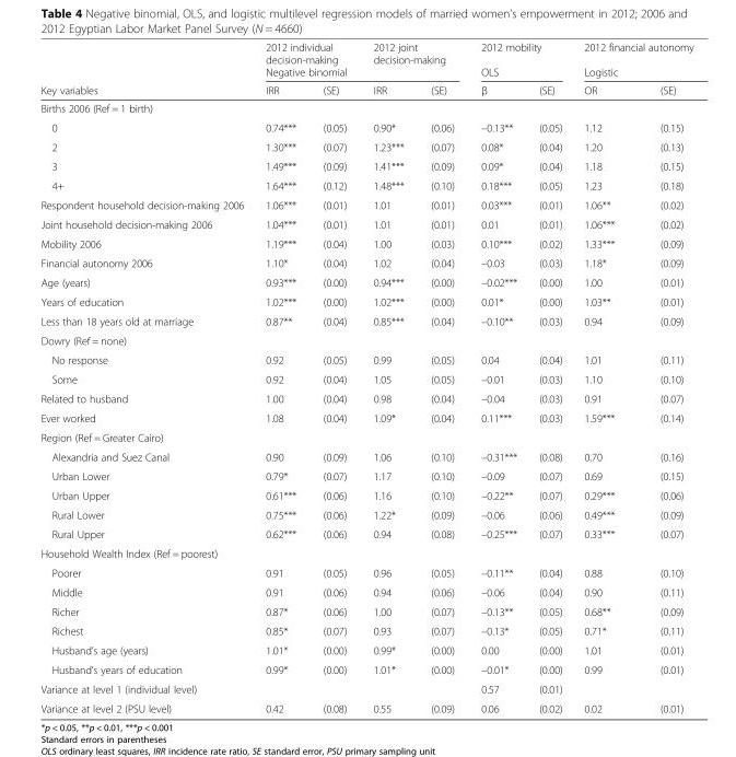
<table><thead><tr><td rowspan="3">Key variables</td><td colspan="2">2012 individual decision-making</td><td colspan="2">2012 joint decision-making</td><td rowspan="2" colspan="2">2012 mobility OLS</td><td rowspan="2" colspan="2">2012 financial autonomy Logistic</td></tr><tr><td colspan="4">Negative binomial</td></tr><tr><td>IRR</td><td>(SE)</td><td>IRR</td><td>(SE)</td><td>β</td><td>(SE)</td><td>OR</td><td>(SE)</td></tr></thead><tbody><tr><td colspan="9">Births 2006 (Ref = 1 birth)</td></tr><tr><td>0</td><td>0.74***</td><td>(0.05)</td><td>0.90*</td><td>(0.06)</td><td>–0.13**</td><td>(0.05)</td><td>1.12</td><td>(0.15)</td></tr><tr><td>2</td><td>1.30***</td><td>(0.07)</td><td>1.23***</td><td>(0.07)</td><td>0.08*</td><td>(0.04)</td><td>1.20</td><td>(0.13)</td></tr><tr><td>3</td><td>1.49***</td><td>(0.09)</td><td>1.41***</td><td>(0.09)</td><td>0.09*</td><td>(0.04)</td><td>1.18</td><td>(0.15)</td></tr><tr><td>4+</td><td>1.64***</td><td>(0.12)</td><td>1.48***</td><td>(0.10)</td><td>0.18***</td><td>(0.05)</td><td>1.23</td><td>(0.18)</td></tr><tr><td>Respondent household decision-making 2006</td><td>1.06***</td><td>(0.01)</td><td>1.01</td><td>(0.01)</td><td>0.03***</td><td>(0.01)</td><td>1.06**</td><td>(0.02)</td></tr><tr><td>Joint household decision-making 2006</td><td>1.04***</td><td>(0.01)</td><td>1.01</td><td>(0.01)</td><td>0.01</td><td>(0.01)</td><td>1.06***</td><td>(0.02)</td></tr><tr><td>Mobility 2006</td><td>1.19***</td><td>(0.04)</td><td>1.00</td><td>(0.03)</td><td>0.10***</td><td>(0.02)</td><td>1.33***</td><td>(0.09)</td></tr><tr><td>Financial autonomy 2006</td><td>1.10*</td><td>(0.04)</td><td>1.02</td><td>(0.04)</td><td>–0.03</td><td>(0.03)</td><td>1.18*</td><td>(0.09)</td></tr><tr><td>Age (years)</td><td>0.93***</td><td>(0.00)</td><td>0.94***</td><td>(0.00)</td><td>–0.02***</td><td>(0.00)</td><td>1.00</td><td>(0.01)</td></tr><tr><td>Years of education</td><td>1.02***</td><td>(0.00)</td><td>1.02***</td><td>(0.00)</td><td>0.01*</td><td>(0.00)</td><td>1.03**</td><td>(0.01)</td></tr><tr><td>Less than 18 years old at marriage</td><td>0.87**</td><td>(0.04)</td><td>0.85***</td><td>(0.04)</td><td>–0.10**</td><td>(0.03)</td><td>0.94</td><td>(0.09)</td></tr><tr><td colspan="9">Dowry (Ref = none)</td></tr><tr><td>No response</td><td>0.92</td><td>(0.05)</td><td>0.99</td><td>(0.05)</td><td>0.04</td><td>(0.04)</td><td>1.01</td><td>(0.11)</td></tr><tr><td>Some</td><td>0.92</td><td>(0.04)</td><td>1.05</td><td>(0.05)</td><td>–0.01</td><td>(0.03)</td><td>1.10</td><td>(0.10)</td></tr><tr><td>Related to husband</td><td>1.00</td><td>(0.04)</td><td>0.98</td><td>(0.04)</td><td>–0.04</td><td>(0.03)</td><td>0.91</td><td>(0.07)</td></tr><tr><td>Ever worked</td><td>1.08</td><td>(0.04)</td><td>1.09*</td><td>(0.04)</td><td>0.11***</td><td>(0.03)</td><td>1.59***</td><td>(0.14)</td></tr><tr><td colspan="9">Region (Ref = Greater Cairo)</td></tr><tr><td>Alexandria and Suez Canal</td><td>0.90</td><td>(0.09)</td><td>1.06</td><td>(0.10)</td><td>–0.31***</td><td>(0.08)</td><td>0.70</td><td>(0.16)</td></tr><tr><td>Urban Lower</td><td>0.79*</td><td>(0.07)</td><td>1.17</td><td>(0.10)</td><td>–0.09</td><td>(0.07)</td><td>0.69</td><td>(0.15)</td></tr><tr><td>Urban Upper</td><td>0.61***</td><td>(0.06)</td><td>1.16</td><td>(0.10)</td><td>–0.22**</td><td>(0.07)</td><td>0.29***</td><td>(0.06)</td></tr><tr><td>Rural Lower</td><td>0.75***</td><td>(0.06)</td><td>1.22*</td><td>(0.09)</td><td>–0.06</td><td>(0.06)</td><td>0.49***</td><td>(0.09)</td></tr><tr><td>Rural Upper</td><td>0.62***</td><td>(0.06)</td><td>0.94</td><td>(0.08)</td><td>–0.25***</td><td>(0.07)</td><td>0.33***</td><td>(0.07)</td></tr><tr><td colspan="9">Household Wealth Index (Ref = poorest)</td></tr><tr><td>Poorer</td><td>0.91</td><td>(0.05)</td><td>0.96</td><td>(0.05)</td><td>–0.11**</td><td>(0.04)</td><td>0.88</td><td>(0.10)</td></tr><tr><td>Middle</td><td>0.91</td><td>(0.06)</td><td>0.94</td><td>(0.06)</td><td>–0.06</td><td>(0.04)</td><td>0.90</td><td>(0.11)</td></tr><tr><td>Richer</td><td>0.87*</td><td>(0.06)</td><td>1.00</td><td>(0.07)</td><td>–0.13**</td><td>(0.05)</td><td>0.68**</td><td>(0.09)</td></tr><tr><td>Richest</td><td>0.85*</td><td>(0.07)</td><td>0.93</td><td>(0.07)</td><td>–0.13*</td><td>(0.05)</td><td>0.71*</td><td>(0.11)</td></tr><tr><td>Husband’s age (years)</td><td>1.01*</td><td>(0.00)</td><td>0.99*</td><td>(0.00)</td><td>0.00</td><td>(0.00)</td><td>1.01</td><td>(0.01)</td></tr><tr><td>Husband’s years of education</td><td>0.99*</td><td>(0.00)</td><td>1.01*</td><td>(0.00)</td><td>–0.01*</td><td>(0.00)</td><td>0.99</td><td>(0.01)</td></tr><tr><td>Variance at level 1 (individual level)</td><td></td><td></td><td></td><td></td><td>0.57</td><td>(0.01)</td><td></td><td></td></tr><tr><td>Variance at level 2 (PSU level)</td><td>0.42</td><td>(0.08)</td><td>0.55</td><td>(0.09)</td><td>0.06</td><td>(0.02)</td><td>0.02</td><td>(0.01)</td></tr></tbody></table>